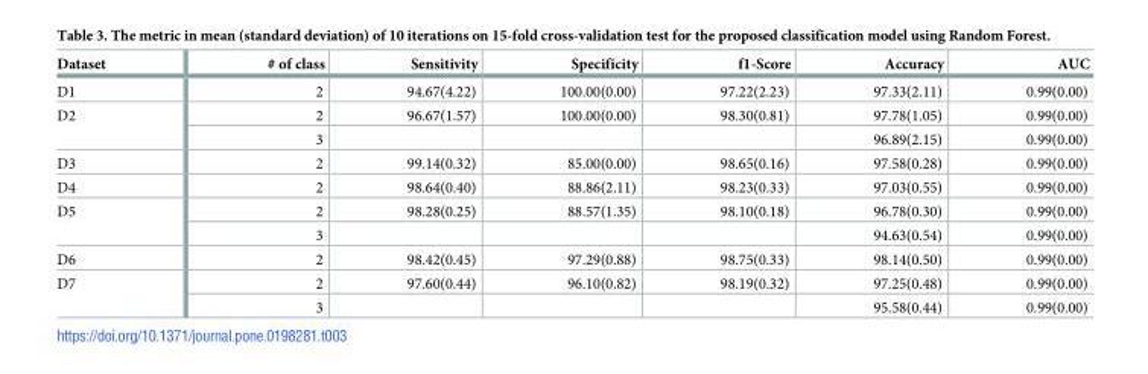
<table><thead><tr><td>Dataset</td><td># of class</td><td>Sensitivity</td><td>Specificity</td><td>f1-Score</td><td>Accuracy</td><td>AUC</td></tr></thead><tbody><tr><td>D1</td><td>2</td><td>94.67(4.22)</td><td>100.00(0.00)</td><td>97.22(2.23)</td><td>97.33(2.11)</td><td>0.99(0.00)</td></tr><tr><td rowspan="2">D2</td><td>2</td><td>96.67(1.57)</td><td>100.00(0.00)</td><td>98.30(0.81)</td><td>97.78(1.05)</td><td>0.99(0.00)</td></tr><tr><td>3</td><td></td><td></td><td></td><td>96.89(2.15)</td><td>0.99(0.00)</td></tr><tr><td>D3</td><td>2</td><td>99.14(0.32)</td><td>85.00(0.00)</td><td>98.65(0.16)</td><td>97.58(0.28)</td><td>0.99(0.00)</td></tr><tr><td>D4</td><td>2</td><td>98.64(0.40)</td><td>88.86(2.11)</td><td>98.23(0.33)</td><td>97.03(0.55)</td><td>0.99(0.00)</td></tr><tr><td rowspan="2">D5</td><td>2</td><td>98.28(0.25)</td><td>88.57(1.35)</td><td>98.10(0.18)</td><td>96.78(0.30)</td><td>0.99(0.00)</td></tr><tr><td>3</td><td></td><td></td><td></td><td>94.63(0.54)</td><td>0.99(0.00)</td></tr><tr><td>D6</td><td>2</td><td>98.42(0.45)</td><td>97.29(0.88)</td><td>98.75(0.33)</td><td>98.14(0.50)</td><td>0.99(0.00)</td></tr><tr><td rowspan="2">D7</td><td>2</td><td>97.60(0.44)</td><td>96.10(0.82)</td><td>98.19(0.32)</td><td>97.25(0.48)</td><td>0.99(0.00)</td></tr><tr><td>3</td><td></td><td></td><td></td><td>95.58(0.44)</td><td>0.99(0.00)</td></tr></tbody></table>